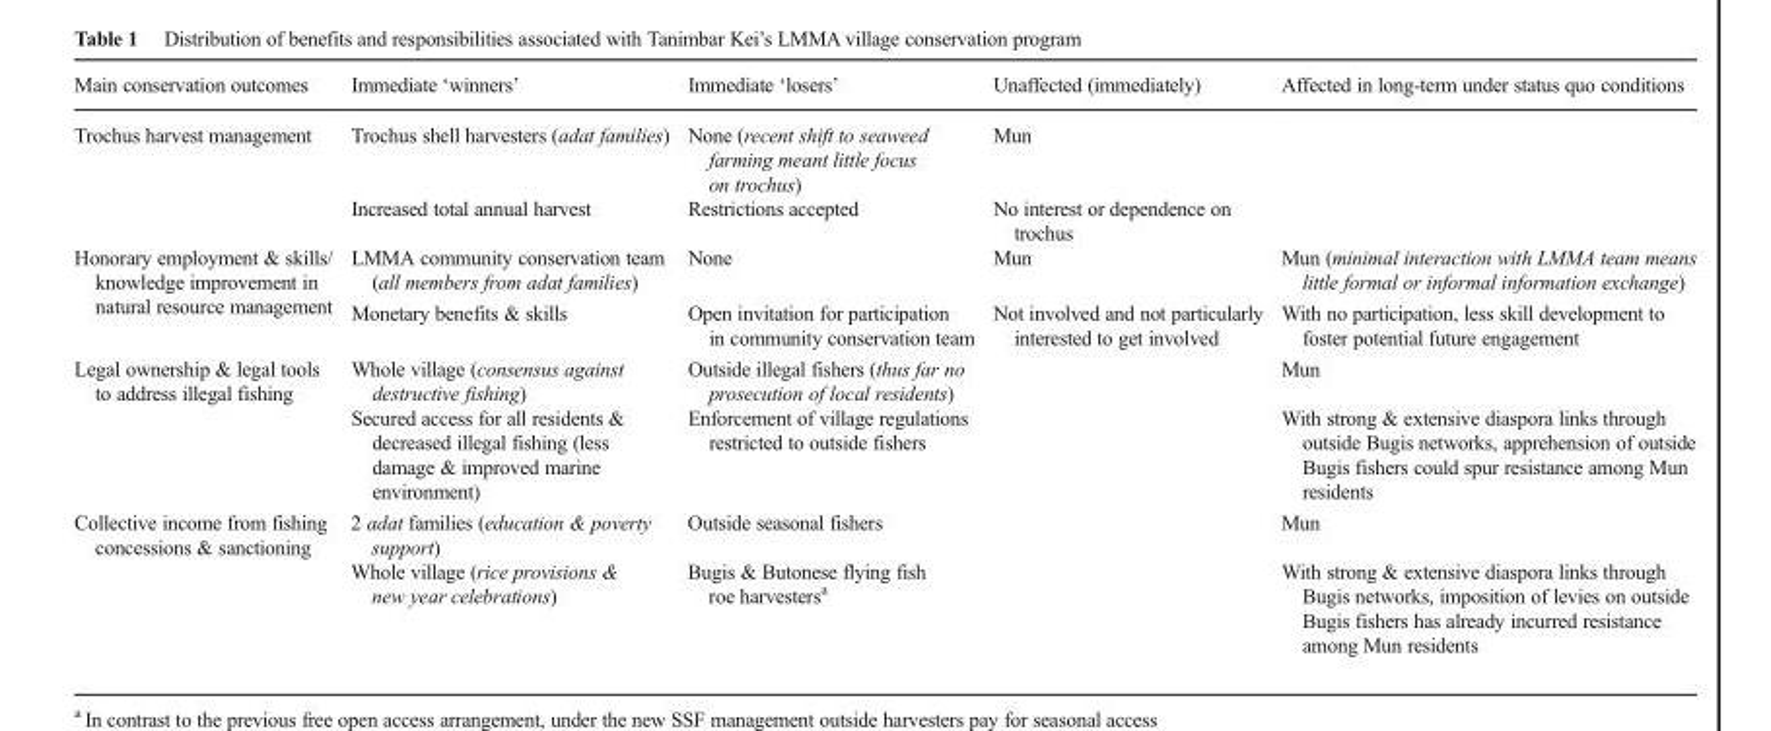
<table><thead><tr><td>Main conservation outcomes</td><td>Immediate ‘winners’</td><td>Immediate ‘losers’</td><td>Unaffected (immediately)</td><td>Affected in long-term under status quo conditions</td></tr></thead><tbody><tr><td rowspan="2">Trochus harvest management</td><td>Trochus shell harvesters (adat families)</td><td>None (recent shift to seaweed farming meant little focus on trochus)</td><td>Mun</td><td></td></tr><tr><td>Increased total annual harvest</td><td>Restrictions accepted</td><td>No interest or dependence on trochus</td><td></td></tr><tr><td rowspan="2">Honorary employment &amp; skills/ knowledge improvement in natural resource management</td><td>LMMA community conservation team (all members from adat families)</td><td>None</td><td>Mun</td><td>Mun (minimal interaction with LMMA team means little formal or informal information exchange)</td></tr><tr><td>Monetary benefits &amp; skills</td><td>Open invitation for participation in community conservation team</td><td>Not involved and not particularly interested to get involved</td><td>With no participation, less skill development to foster potential future engagement</td></tr><tr><td rowspan="2">Legal ownership &amp; legal tools to address illegal fishing</td><td>Whole village (consensus against destructive fishing)</td><td>Outside illegal fishers (thus far no prosecution of local residents)</td><td></td><td>Mun</td></tr><tr><td>Secured access for all residents &amp; decreased illegal fishing (less damage &amp; improved marine environment)</td><td>Enforcement of village regulations restricted to outside fishers</td><td></td><td>With strong &amp; extensive diaspora links through outside Bugis networks, apprehension of outside Bugis fishers could spur resistance among Mun residents</td></tr><tr><td rowspan="2">Collective income from fishing concessions &amp; sanctioning</td><td>2 adat families (education &amp; poverty support)</td><td>Outside seasonal fishers</td><td></td><td>Mun</td></tr><tr><td>Whole village (rice provisions &amp; new year celebrations)</td><td>Bugis &amp; Butonese flying fish roe harvesters<sup>a</sup></td><td></td><td>With strong &amp; extensive diaspora links through Bugis networks, imposition of levies on outside Bugis fishers has already incurred resistance among Mun residents</td></tr></tbody></table>